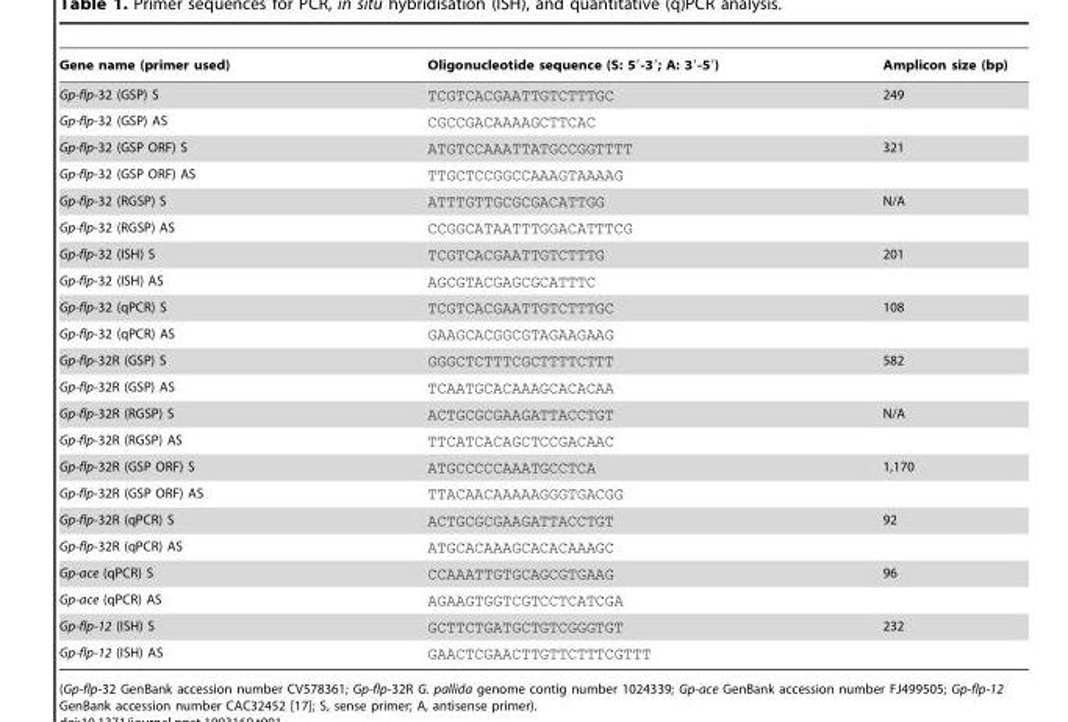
<table><thead><tr><td>Gene name (primer used)</td><td>Oligonucleotide sequence (S: 5′-3′; A: 3′-5′)</td><td>Amplicon size (bp)</td></tr></thead><tbody><tr><td>Gp-flp-32 (GSP) S</td><td>TCGTCACGAATTGTCTTTGC</td><td>249</td></tr><tr><td>Gp-flp-32 (GSP) AS</td><td>CGCCGACAAAAGCTTCAC</td><td></td></tr><tr><td>Gp-flp-32 (GSP ORF) S</td><td>ATGTCCAAATTATGCCGGTTTT</td><td>321</td></tr><tr><td>Gp-flp-32 (GSP ORF) AS</td><td>TTGCTCCGGCCAAAGTAAAAG</td><td></td></tr><tr><td>Gp-flp-32 (RGSP) S</td><td>ATTTGTTGCGCGACATTGG</td><td>N/A</td></tr><tr><td>Gp-flp-32 (RGSP) AS</td><td>CCGGCATAATTTGGACATTTCG</td><td></td></tr><tr><td>Gp-flp-32 (ISH) S</td><td>TCGTCACGAATTGTCTTTG</td><td>201</td></tr><tr><td>Gp-flp-32 (ISH) AS</td><td>AGCGTACGAGCGCATTTC</td><td></td></tr><tr><td>Gp-flp-32 (qPCR) S</td><td>TCGTCACGAATTGTCTTTGC</td><td>108</td></tr><tr><td>Gp-flp-32 (qPCR) AS</td><td>GAAGCACGGCGTAGAAGAAG</td><td></td></tr><tr><td>Gp-flp-32R (GSP) S</td><td>GGGCTCTTTCGCTTTTCTTT</td><td>582</td></tr><tr><td>Gp-flp-32R (GSP) AS</td><td>TCAATGCACAAAGCACACAA</td><td></td></tr><tr><td>Gp-flp-32R (RGSP) S</td><td>ACTGCGCGAAGATTACCTGT</td><td>N/A</td></tr><tr><td>Gp-flp-32R (RGSP) AS</td><td>TTCATCACAGCTCCGACAAC</td><td></td></tr><tr><td>Gp-flp-32R (GSP ORF) S</td><td>ATGCCCCCAAATGCCTCA</td><td>1,170</td></tr><tr><td>Gp-flp-32R (GSP ORF) AS</td><td>TTACAACAAAAAGGGTGACGG</td><td></td></tr><tr><td>Gp-flp-32R (qPCR) S</td><td>ACTGCGCGAAGATTACCTGT</td><td>92</td></tr><tr><td>Gp-flp-32R (qPCR) AS</td><td>ATGCACAAAGCACACAAAGC</td><td></td></tr><tr><td>Gp-ace (qPCR) S</td><td>CCAAATTGTGCAGCGTGAAG</td><td>96</td></tr><tr><td>Gp-ace (qPCR) AS</td><td>AGAAGTGGTCGTCCTCATCGA</td><td></td></tr><tr><td>Gp-flp-12 (ISH) S</td><td>GCTTCTGATGCTGTCGGGTGT</td><td>232</td></tr><tr><td>Gp-flp-12 (ISH) AS</td><td>GAACTCGAACTTGTTCTTTCGTTT</td><td></td></tr></tbody></table>